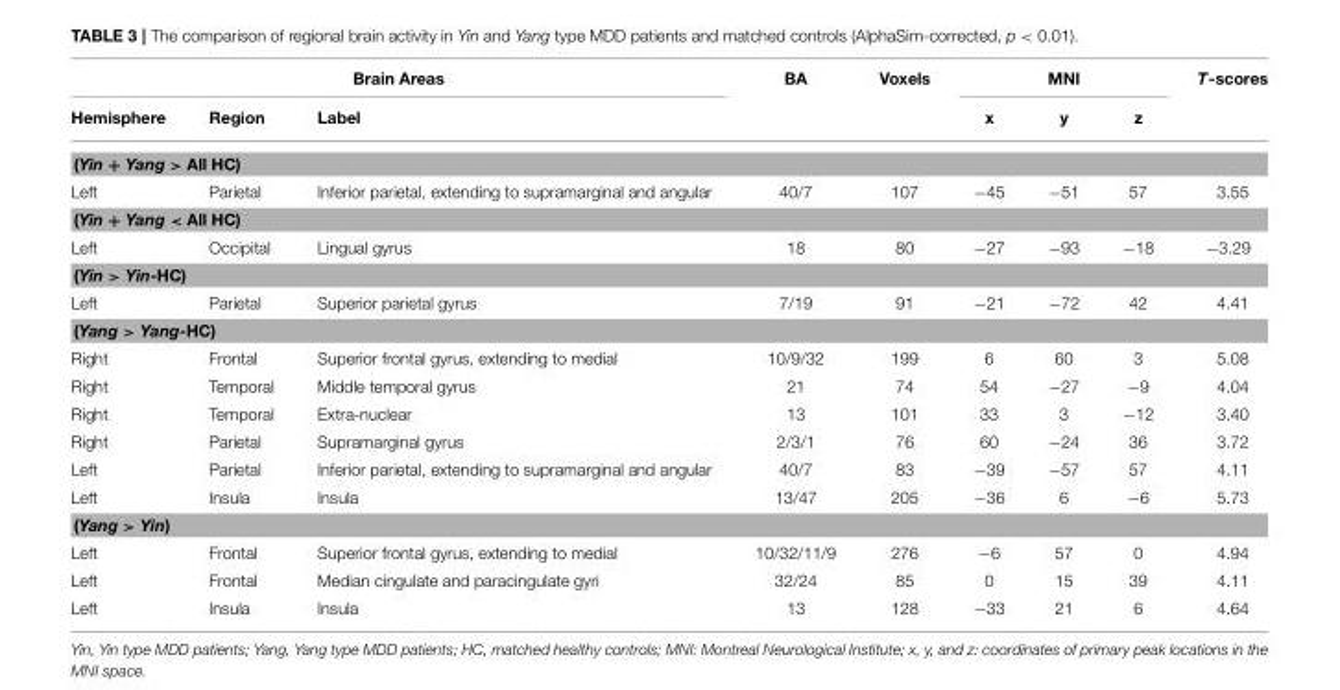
<table><thead><tr><td colspan="3">Brain Areas</td><td rowspan="2">BA</td><td rowspan="2">Voxels</td><td colspan="3">MNI</td><td rowspan="2">T-scores</td></tr><tr><td>Hemisphere</td><td>Region</td><td>Label</td><td>x</td><td>y</td><td>z</td></tr></thead><tbody><tr><td colspan="9">(Yin + Yang &gt; All HC)</td></tr><tr><td>Left</td><td>Parietal</td><td>Inferior parietal, extending to supramarginal and angular</td><td>40/7</td><td>107</td><td>−45</td><td>−51</td><td>57</td><td>3.55</td></tr><tr><td colspan="9">(Yin + Yang &lt; All HC)</td></tr><tr><td>Left</td><td>Occipital</td><td>Lingual gyrus</td><td>18</td><td>80</td><td>−27</td><td>−93</td><td>−18</td><td>−3.29</td></tr><tr><td colspan="9">(Yin &gt; Yin-HC)</td></tr><tr><td>Left</td><td>Parietal</td><td>Superior parietal gyrus</td><td>7/19</td><td>91</td><td>−21</td><td>−72</td><td>42</td><td>4.41</td></tr><tr><td colspan="9">(Yang &gt; Yang-HC)</td></tr><tr><td>Right</td><td>Frontal</td><td>Superior frontal gyrus, extending to medial</td><td>10/9/32</td><td>199</td><td>6</td><td>60</td><td>3</td><td>5.08</td></tr><tr><td>Right</td><td>Temporal</td><td>Middle temporal gyrus</td><td>21</td><td>74</td><td>54</td><td>−27</td><td>−9</td><td>4.04</td></tr><tr><td>Right</td><td>Temporal</td><td>Extra-nuclear</td><td>13</td><td>101</td><td>33</td><td>3</td><td>−12</td><td>3.40</td></tr><tr><td>Right</td><td>Parietal</td><td>Supramarginal gyrus</td><td>2/3/1</td><td>76</td><td>60</td><td>−24</td><td>36</td><td>3.72</td></tr><tr><td>Left</td><td>Parietal</td><td>Inferior parietal, extending to supramarginal and angular</td><td>40/7</td><td>83</td><td>−39</td><td>−57</td><td>57</td><td>4.11</td></tr><tr><td>Left</td><td>Insula</td><td>Insula</td><td>13/47</td><td>205</td><td>−36</td><td>6</td><td>−6</td><td>5.73</td></tr><tr><td colspan="9">(Yang &gt; Yin)</td></tr><tr><td>Left</td><td>Frontal</td><td>Superior frontal gyrus, extending to medial</td><td>10/32/11/9</td><td>276</td><td>−6</td><td>57</td><td>0</td><td>4.94</td></tr><tr><td>Left</td><td>Frontal</td><td>Median cingulate and paracingulate gyri</td><td>32/24</td><td>85</td><td>0</td><td>15</td><td>39</td><td>4.11</td></tr><tr><td>Left</td><td>Insula</td><td>Insula</td><td>13</td><td>128</td><td>−33</td><td>21</td><td>6</td><td>4.64</td></tr></tbody></table>